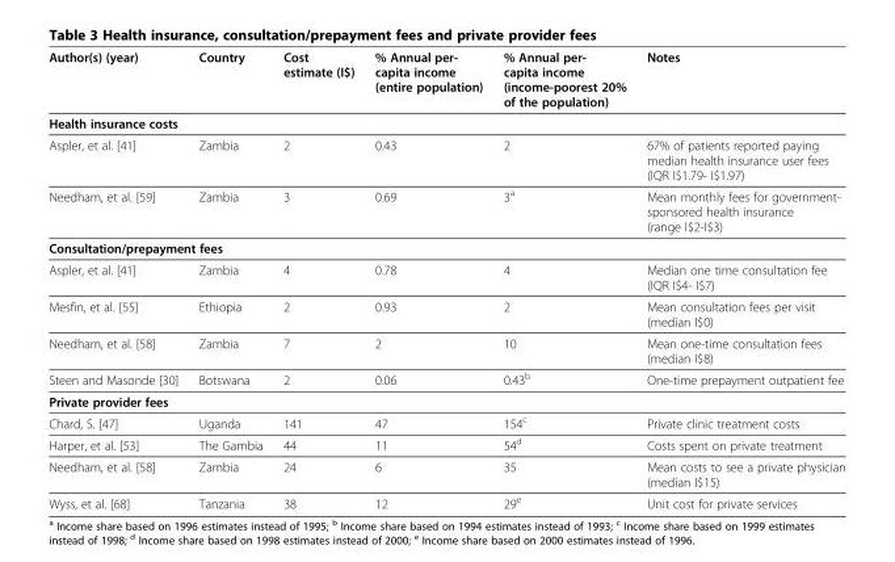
<table><thead><tr><td>Author(s) (year)</td><td>Country</td><td>Cost estimate (I$)</td><td>% Annual per- capita income (entire population)</td><td>% Annual per- capita income (income-poorest 20% of the population)</td><td>Notes</td></tr></thead><tbody><tr><td colspan="6">Health insurance costs</td></tr><tr><td>Aspler, et al. [41]</td><td>Zambia</td><td>2</td><td>0.43</td><td>2</td><td>67% of patients reported paying median health insurance user fees (IQR I$1.79- I$1.97)</td></tr><tr><td>Needham, et al. [59]</td><td>Zambia</td><td>3</td><td>0.69</td><td>3<sup>a</sup></td><td>Mean monthly fees for government- sponsored health insurance (range I$2-I$3)</td></tr><tr><td colspan="6">Consultation/prepayment fees</td></tr><tr><td>Aspler, et al. [41]</td><td>Zambia</td><td>4</td><td>0.78</td><td>4</td><td>Median one time consultation fee (IQR I$4- I$7)</td></tr><tr><td>Mesfin, et al. [55]</td><td>Ethiopia</td><td>2</td><td>0.93</td><td>2</td><td>Mean consultation fees per visit (median I$0)</td></tr><tr><td>Needham, et al. [58]</td><td>Zambia</td><td>7</td><td>2</td><td>10</td><td>Mean one-time consultation fees (median I$8)</td></tr><tr><td>Steen and Masonde [30]</td><td>Botswana</td><td>2</td><td>0.06</td><td>0.43<sup>b</sup></td><td>One-time prepayment outpatient fee</td></tr><tr><td colspan="6">Private provider fees</td></tr><tr><td>Chard, S. [47]</td><td>Uganda</td><td>141</td><td>47</td><td>154<sup>c</sup></td><td>Private clinic treatment costs</td></tr><tr><td>Harper, et al. [53]</td><td>The Gambia</td><td>44</td><td>11</td><td>54<sup>d</sup></td><td>Costs spent on private treatment</td></tr><tr><td>Needham, et al. [58]</td><td>Zambia</td><td>24</td><td>6</td><td>35</td><td>Mean costs to see a private physician (median I$15)</td></tr><tr><td>Wyss, et al. [68]</td><td>Tanzania</td><td>38</td><td>12</td><td>29<sup>e</sup></td><td>Unit cost for private services</td></tr></tbody></table>